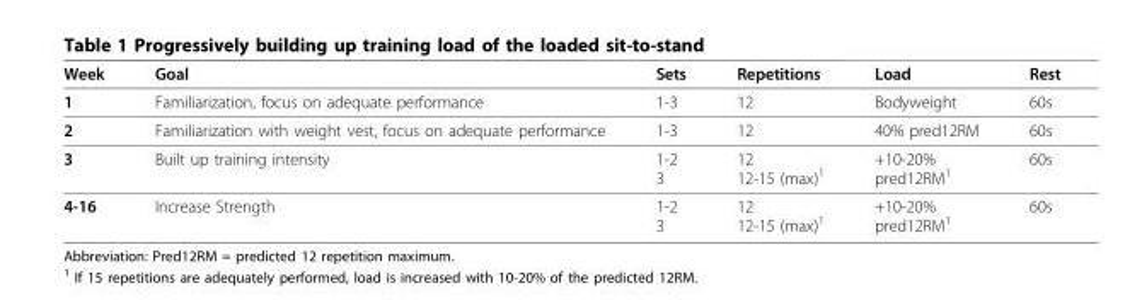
<table><thead><tr><td>Week</td><td>Goal</td><td>Sets</td><td>Repetitions</td><td>Load</td><td>Rest</td></tr></thead><tbody><tr><td>1</td><td>Familiarization, focus on adequate performance</td><td>1-3</td><td>12</td><td>Bodyweight</td><td>60s</td></tr><tr><td>2</td><td>Familiarization with weight vest, focus on adequate performance</td><td>1-3</td><td>12</td><td>40% pred12RM</td><td>60s</td></tr><tr><td>3</td><td>Built up training intensity</td><td>1-2 3</td><td>12 12-15 (max)<sup>1</sup></td><td>+10-20% pred12RM<sup>1</sup></td><td>60s</td></tr><tr><td>4-16</td><td>Increase Strength</td><td>1-2 3</td><td>12 12-15 (max)<sup>1</sup></td><td>+10-20% pred12RM<sup>1</sup></td><td>60s</td></tr></tbody></table>